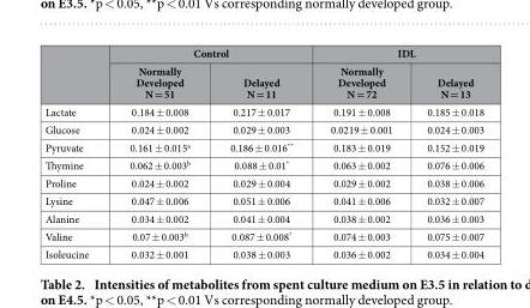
<table><thead><tr><td rowspan="2"></td><td colspan="2">Control</td><td colspan="2">IDL</td></tr><tr><td>Normally Developed N = 51</td><td>Delayed N = 11</td><td>Normally Developed N = 72</td><td>Delayed N = 13</td></tr></thead><tbody><tr><td>Lactate</td><td>0.184 ± 0.008</td><td>0.217 ± 0.017</td><td>0.191 ± 0.008</td><td>0.185 ± 0.018</td></tr><tr><td>Glucose</td><td>0.024 ± 0.002</td><td>0.029 ± 0.003</td><td>0.0219 ± 0.001</td><td>0.024 ± 0.003</td></tr><tr><td>Pyruvate</td><td>0.161 ± 0.015<sup>a</sup></td><td>0.186 ± 0.016**</td><td>0.183 ± 0.019</td><td>0.152 ± 0.019</td></tr><tr><td>Thymine</td><td>0.062 ± 0.003<sup>b</sup></td><td>0.088 ± 0.01*</td><td>0.063 ± 0.002</td><td>0.076 ± 0.006</td></tr><tr><td>Proline</td><td>0.024 ± 0.002</td><td>0.029 ± 0.004</td><td>0.029 ± 0.002</td><td>0.038 ± 0.006</td></tr><tr><td>Lysine</td><td>0.047 ± 0.006</td><td>0.051 ± 0.006</td><td>0.041 ± 0.006</td><td>0.032 ± 0.007</td></tr><tr><td>Alanine</td><td>0.034 ± 0.002</td><td>0.041 ± 0.004</td><td>0.038 ± 0.002</td><td>0.036 ± 0.003</td></tr><tr><td>Valine</td><td>0.07 ± 0.003<sup>b</sup></td><td>0.087 ± 0.008*</td><td>0.074 ± 0.003</td><td>0.075 ± 0.007</td></tr><tr><td>Isoleucine</td><td>0.032 ± 0.001</td><td>0.038 ± 0.003</td><td>0.036 ± 0.002</td><td>0.034 ± 0.004</td></tr></tbody></table>